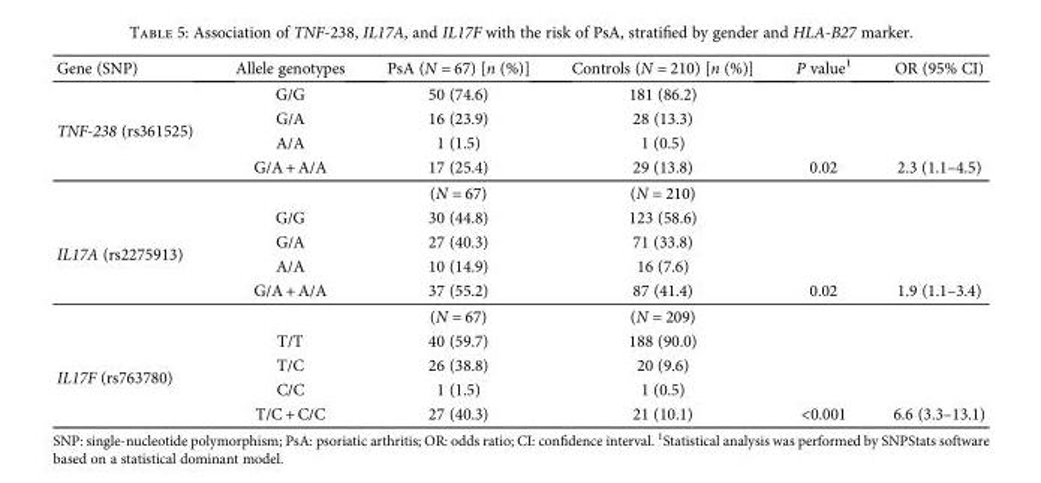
<table><thead><tr><td>Gene (SNP)</td><td>Allele genotypes</td><td>PsA (N = 67) [n (%)]</td><td>Controls (N = 210) [n (%)]</td><td>P value<sup>1</sup></td><td>OR (95% CI)</td></tr></thead><tbody><tr><td rowspan="5">TNF-238 (rs361525)</td><td>G/G</td><td>50 (74.6)</td><td>181 (86.2)</td><td rowspan="3"></td><td rowspan="3"></td></tr><tr><td>G/A</td><td>16 (23.9)</td><td>28 (13.3)</td></tr><tr><td>A/A</td><td>1 (1.5)</td><td>1 (0.5)</td></tr><tr><td>G/A + A/A</td><td>17 (25.4)</td><td>29 (13.8)</td><td>0.02</td><td>2.3 (1.1–4.5)</td></tr><tr><td></td><td>(N = 67)</td><td>(N = 210)</td><td></td><td></td></tr><tr><td rowspan="5">IL17A (rs2275913)</td><td>G/G</td><td>30 (44.8)</td><td>123 (58.6)</td><td rowspan="3"></td><td rowspan="3"></td></tr><tr><td>G/A</td><td>27 (40.3)</td><td>71 (33.8)</td></tr><tr><td>A/A</td><td>10 (14.9)</td><td>16 (7.6)</td></tr><tr><td>G/A + A/A</td><td>37 (55.2)</td><td>87 (41.4)</td><td>0.02</td><td>1.9 (1.1–3.4)</td></tr><tr><td></td><td>(N = 67)</td><td>(N = 209)</td><td></td><td></td></tr><tr><td rowspan="4">IL17F (rs763780)</td><td>T/T</td><td>40 (59.7)</td><td>188 (90.0)</td><td rowspan="3"></td><td rowspan="3"></td></tr><tr><td>T/C</td><td>26 (38.8)</td><td>20 (9.6)</td></tr><tr><td>C/C</td><td>1 (1.5)</td><td>1 (0.5)</td></tr><tr><td>T/C + C/C</td><td>27 (40.3)</td><td>21 (10.1)</td><td>&lt;0.001</td><td>6.6 (3.3–13.1)</td></tr></tbody></table>